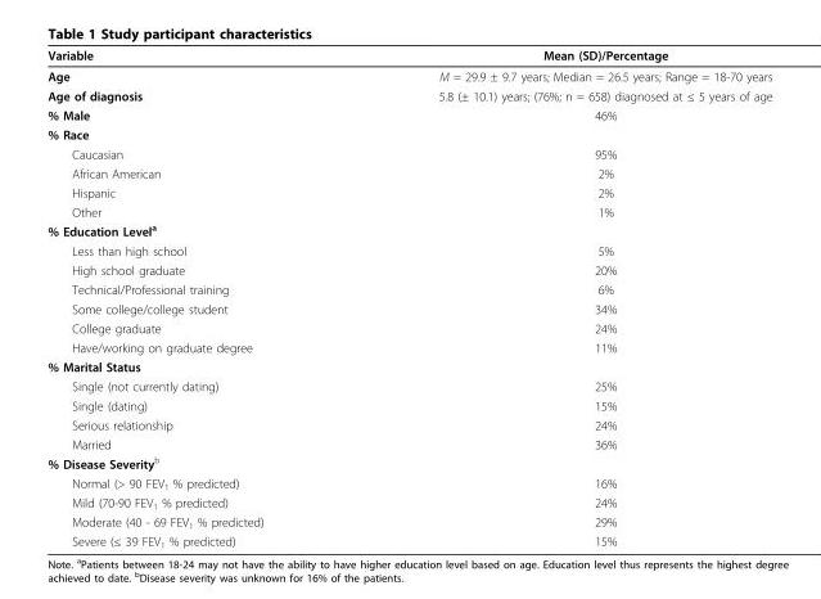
<table><thead><tr><td>Variable</td><td>Mean (SD)/Percentage</td></tr></thead><tbody><tr><td>Age</td><td>M = 29.9 ± 9.7 years; Median = 26.5 years; Range = 18-70 years</td></tr><tr><td>Age of diagnosis</td><td>5.8 (± 10.1) years; (76%; n = 658) diagnosed at ≤ 5 years of age</td></tr><tr><td>% Male</td><td>46%</td></tr><tr><td colspan="2">% Race</td></tr><tr><td>Caucasian</td><td>95%</td></tr><tr><td>African American</td><td>2%</td></tr><tr><td>Hispanic</td><td>2%</td></tr><tr><td>Other</td><td>1%</td></tr><tr><td colspan="2">% Education Level<sup>a</sup></td></tr><tr><td>Less than high school</td><td>5%</td></tr><tr><td>High school graduate</td><td>20%</td></tr><tr><td>Technical/Professional training</td><td>6%</td></tr><tr><td>Some college/college student</td><td>34%</td></tr><tr><td>College graduate</td><td>24%</td></tr><tr><td>Have/working on graduate degree</td><td>11%</td></tr><tr><td colspan="2">% Marital Status</td></tr><tr><td>Single (not currently dating)</td><td>25%</td></tr><tr><td>Single (dating)</td><td>15%</td></tr><tr><td>Serious relationship</td><td>24%</td></tr><tr><td>Married</td><td>36%</td></tr><tr><td colspan="2">% Disease Severity<sup>b</sup></td></tr><tr><td>Normal (&gt; 90 FEV<sub>1</sub> % predicted)</td><td>16%</td></tr><tr><td>Mild (70-90 FEV<sub>1</sub> % predicted)</td><td>24%</td></tr><tr><td>Moderate (40 - 69 FEV<sub>1</sub> % predicted)</td><td>29%</td></tr><tr><td>Severe (≤ 39 FEV<sub>1</sub> % predicted)</td><td>15%</td></tr></tbody></table>